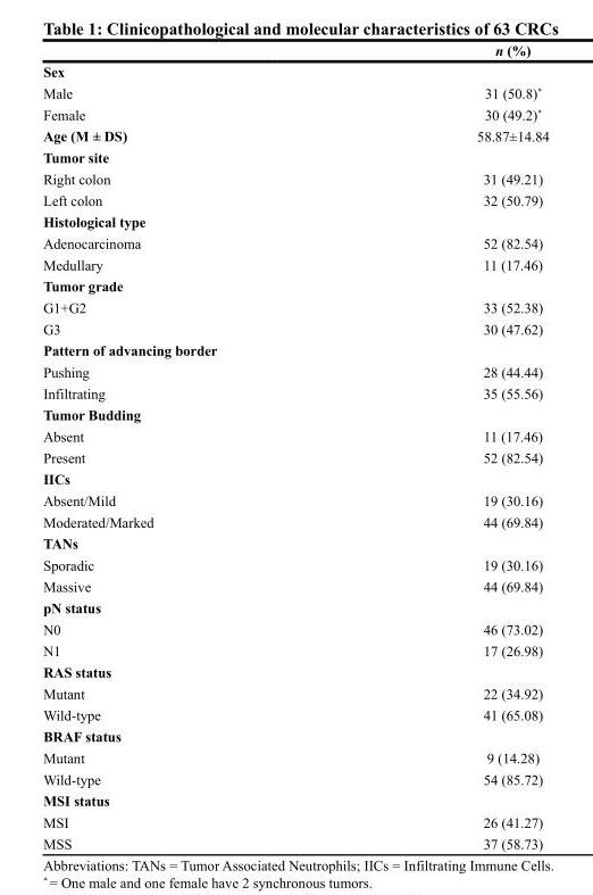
<table><thead><tr><td></td><td>n (%)</td></tr></thead><tbody><tr><td colspan="2">Sex</td></tr><tr><td>Male</td><td>31 (50.8)*</td></tr><tr><td>Female</td><td>30 (49.2)*</td></tr><tr><td>Age (M ± DS)</td><td>58.87±14.84</td></tr><tr><td colspan="2">Tumor site</td></tr><tr><td>Right colon</td><td>31 (49.21)</td></tr><tr><td>Left colon</td><td>32 (50.79)</td></tr><tr><td colspan="2">Histological type</td></tr><tr><td>Adenocarcinoma</td><td>52 (82.54)</td></tr><tr><td>Medullary</td><td>11 (17.46)</td></tr><tr><td colspan="2">Tumor grade</td></tr><tr><td>G1+G2</td><td>33 (52.38)</td></tr><tr><td>G3</td><td>30 (47.62)</td></tr><tr><td colspan="2">Pattern of advancing border</td></tr><tr><td>Pushing</td><td>28 (44.44)</td></tr><tr><td>Infiltrating</td><td>35 (55.56)</td></tr><tr><td colspan="2">Tumor Budding</td></tr><tr><td>Absent</td><td>11 (17.46)</td></tr><tr><td>Present</td><td>52 (82.54)</td></tr><tr><td colspan="2">IICs</td></tr><tr><td>Absent/Mild</td><td>19 (30.16)</td></tr><tr><td>Moderated/Marked</td><td>44 (69.84)</td></tr><tr><td colspan="2">TANs</td></tr><tr><td>Sporadic</td><td>19 (30.16)</td></tr><tr><td>Massive</td><td>44 (69.84)</td></tr><tr><td colspan="2">pN status</td></tr><tr><td>N0</td><td>46 (73.02)</td></tr><tr><td>N1</td><td>17 (26.98)</td></tr><tr><td colspan="2">RAS status</td></tr><tr><td>Mutant</td><td>22 (34.92)</td></tr><tr><td>Wild-type</td><td>41 (65.08)</td></tr><tr><td colspan="2">BRAF status</td></tr><tr><td>Mutant</td><td>9 (14.28)</td></tr><tr><td>Wild-type</td><td>54 (85.72)</td></tr><tr><td colspan="2">MSI status</td></tr><tr><td>MSI</td><td>26 (41.27)</td></tr><tr><td>MSS</td><td>37 (58.73)</td></tr></tbody></table>